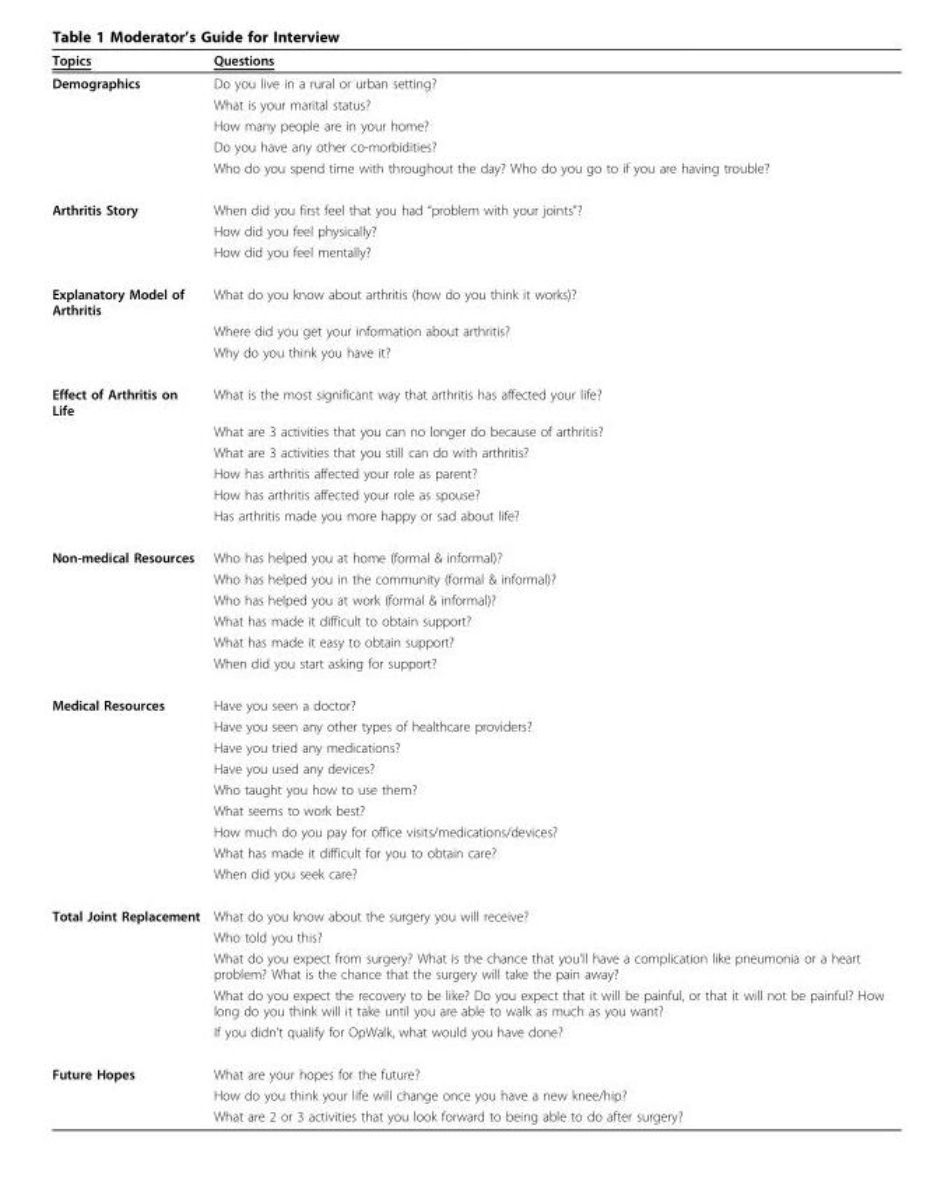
<table><thead><tr><td>Topics</td><td>Questions</td></tr></thead><tbody><tr><td rowspan="5">Demographics</td><td>Do you live in a rural or urban setting?</td></tr><tr><td>What is your marital status?</td></tr><tr><td>How many people are in your home?</td></tr><tr><td>Do you have any other co-morbidities?</td></tr><tr><td>Who do you spend time with throughout the day? Who do you go to if you are having trouble?</td></tr><tr><td rowspan="3">Arthritis Story</td><td>When did you first feel that you had “problem with your joints&quot;?</td></tr><tr><td>How did you feel physically?</td></tr><tr><td>How did you feel mentally?</td></tr><tr><td rowspan="3">Explanatory Model of Arthritis</td><td>What do you know about arthritis (how do you think it works)?</td></tr><tr><td>Where did you get your information about arthritis?</td></tr><tr><td>Why do you think you have it?</td></tr><tr><td rowspan="6">Effect of Arthritis on Life</td><td>What is the most significant way that arthritis has affected your life?</td></tr><tr><td>What are 3 activities that you can no longer do because of arthritis?</td></tr><tr><td>What are 3 activities that you still can do with arthritis?</td></tr><tr><td>How has arthritis affected your role as parent?</td></tr><tr><td>How has arthritis affected your role as spouse?</td></tr><tr><td>Has arthritis made you more happy or sad about life?</td></tr><tr><td rowspan="6">Non-medical Resources</td><td>Who has helped you at home (formal &amp; informal)?</td></tr><tr><td>Who has helped you in the community (formal &amp; informal)?</td></tr><tr><td>Who has helped you at work (formal &amp; informal)?</td></tr><tr><td>What has made it difficult to obtain support?</td></tr><tr><td>What has made it easy to obtain support?</td></tr><tr><td>When did you start asking for support?</td></tr><tr><td rowspan="9">Medical Resources</td><td>Have you seen a doctor?</td></tr><tr><td>Have you seen any other types of healthcare providers?</td></tr><tr><td>Have you tried any medications?</td></tr><tr><td>Have you used any devices?</td></tr><tr><td>Who taught you how to use them?</td></tr><tr><td>What seems to work best?</td></tr><tr><td>How much do you pay for office visits/medications/devices?</td></tr><tr><td>What has made it difficult for you to obtain care?</td></tr><tr><td>When did you seek care?</td></tr><tr><td rowspan="5">Total Joint Replacement</td><td>What do you know about the surgery you will receive?</td></tr><tr><td>Who told you this?</td></tr><tr><td>What do you expect from surgery? What is the chance that you’ll have a complication like pneumonia or a heart problem? What is the chance that the surgery will take the pain away?</td></tr><tr><td>What do you expect the recovery to be like? Do you expect that it will be painful, or that it will not be painful? How long do you think will it take until you are able to walk as much as you want?</td></tr><tr><td>If you didn’t qualify for OpWalk, what would you have done?</td></tr><tr><td rowspan="3">Future Hopes</td><td>What are your hopes for the future?</td></tr><tr><td>How do you think your life will change once you have a new knee/hip?</td></tr><tr><td>What are 2 or 3 activities that you look forward to being able to do after surgery?</td></tr></tbody></table>